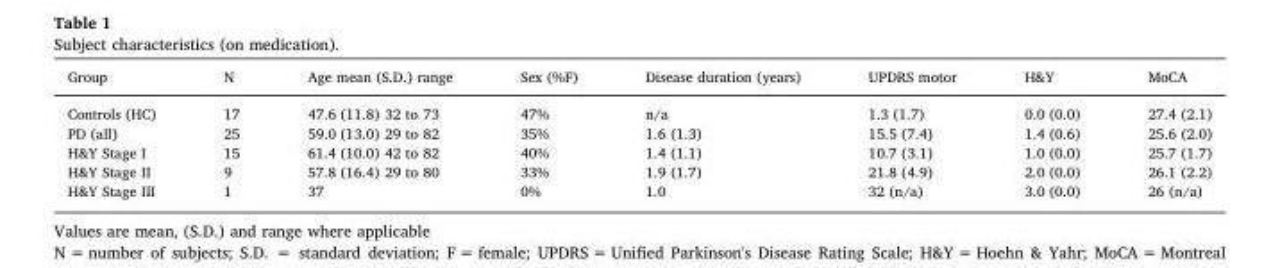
<table><thead><tr><td>Group</td><td>N</td><td>Age mean (S.D.) range</td><td>Sex (%F)</td><td>Disease duration (years)</td><td>UPDRS motor</td><td>H&amp;Y</td><td>MoCA</td></tr></thead><tbody><tr><td>Controls (HC)</td><td>17</td><td>47.6 (11.8) 32 to 73</td><td>47%</td><td>n/a</td><td>1.3 (1.7)</td><td>0.0 (0.0)</td><td>27.4 (2.1)</td></tr><tr><td>PD (all)</td><td>25</td><td>59.0 (13.0) 29 to 82</td><td>35%</td><td>1.6 (1.3)</td><td>15.5 (7.4)</td><td>1.4 (0.6)</td><td>25.6 (2.0)</td></tr><tr><td>H&amp;Y Stage I</td><td>15</td><td>61.4 (10.0) 42 to 82</td><td>40%</td><td>1.4 (1.1)</td><td>10.7 (3.1)</td><td>1.0 (0.0)</td><td>25.7 (1.7)</td></tr><tr><td>H&amp;Y Stage II</td><td>9</td><td>57.8 (16.4) 29 to 80</td><td>33%</td><td>1.9 (1.7)</td><td>21.8 (4.9)</td><td>2.0 (0.0)</td><td>26.1 (2.2)</td></tr><tr><td>H&amp;Y Stage III</td><td>1</td><td>37</td><td>0%</td><td>1.0</td><td>32 (n/a)</td><td>3.0 (0.0)</td><td>26 (n/a)</td></tr></tbody></table>